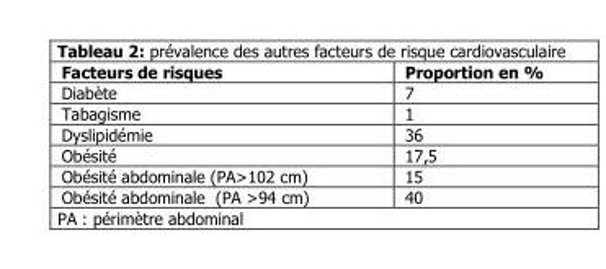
<table><thead><tr><td>Facteurs de risques</td><td>Proportion en %</td></tr></thead><tbody><tr><td>Diabète</td><td>7</td></tr><tr><td>Tabagisme</td><td>1</td></tr><tr><td>Dyslipidémie</td><td>36</td></tr><tr><td>Obésité</td><td>17,5</td></tr><tr><td>Obésité abdominale (PA&gt;102 cm)</td><td>15</td></tr><tr><td>Obésité abdominale (PA &gt;94 cm)</td><td>40</td></tr></tbody></table>